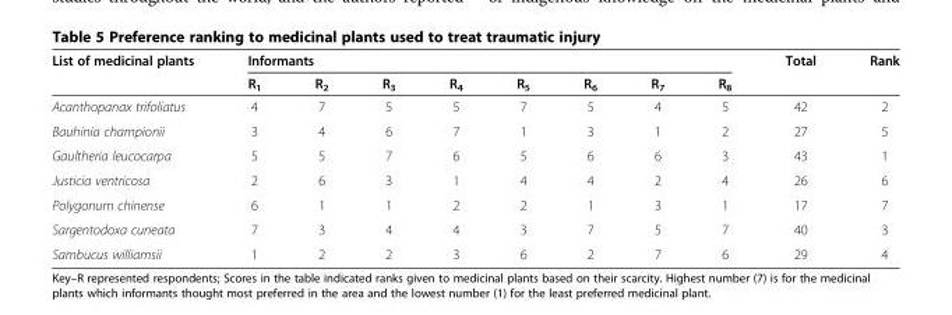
<table><thead><tr><td rowspan="2">List of medicinal plants</td><td colspan="8">Informants</td><td rowspan="2">Total</td><td rowspan="2">Rank</td></tr><tr><td>R<sub>1</sub></td><td>R<sub>2</sub></td><td>R<sub>3</sub></td><td>R<sub>4</sub></td><td>R<sub>5</sub></td><td>R<sub>6</sub></td><td>R<sub>7</sub></td><td>R<sub>8</sub></td></tr></thead><tbody><tr><td>Acanthopanax trifoliatus</td><td>4</td><td>7</td><td>5</td><td>5</td><td>7</td><td>5</td><td>4</td><td>5</td><td>42</td><td>2</td></tr><tr><td>Bauhinia championii</td><td>3</td><td>4</td><td>6</td><td>7</td><td>1</td><td>3</td><td>1</td><td>2</td><td>27</td><td>5</td></tr><tr><td>Gaultheria leucocarpa</td><td>5</td><td>5</td><td>7</td><td>6</td><td>5</td><td>6</td><td>6</td><td>3</td><td>43</td><td>1</td></tr><tr><td>Justicia ventricosa</td><td>2</td><td>6</td><td>3</td><td>1</td><td>4</td><td>4</td><td>2</td><td>4</td><td>26</td><td>6</td></tr><tr><td>Polygonum chinense</td><td>6</td><td>1</td><td>1</td><td>2</td><td>2</td><td>1</td><td>3</td><td>1</td><td>17</td><td>7</td></tr><tr><td>Sargentodoxa cuneata</td><td>7</td><td>3</td><td>4</td><td>4</td><td>3</td><td>7</td><td>5</td><td>7</td><td>40</td><td>3</td></tr><tr><td>Sambucus williamsii</td><td>1</td><td>2</td><td>2</td><td>3</td><td>6</td><td>2</td><td>7</td><td>6</td><td>29</td><td>4</td></tr></tbody></table>